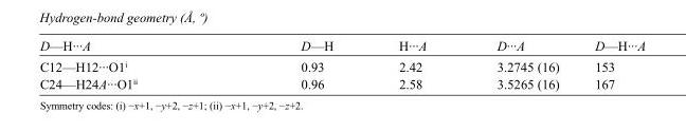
<table><tbody><tr><td>D—H···A</td><td>D—H</td><td>H···A</td><td>D···A</td><td>D—H···A</td></tr><tr><td>C12—H12···O1<sup>i</sup></td><td>0.93</td><td>2.42</td><td>3.2745 (16)</td><td>153</td></tr><tr><td>C24—H24A···O1<sup>ii</sup></td><td>0.96</td><td>2.58</td><td>3.5265 (16)</td><td>167</td></tr></tbody></table>